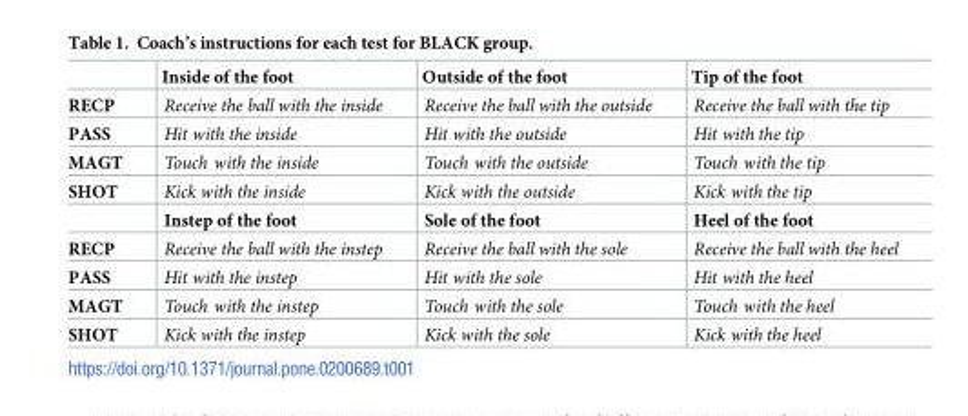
<table><thead><tr><td></td><td>Inside of the foot</td><td>Outside of the foot</td><td>Tip of the foot</td></tr></thead><tbody><tr><td>RECP</td><td>Receive the ball with the inside</td><td>Receive the ball with the outside</td><td>Receive the ball with the tip</td></tr><tr><td>PASS</td><td>Hit with the inside</td><td>Hit with the outside</td><td>Hit with the tip</td></tr><tr><td>MAGT</td><td>Touch with the inside</td><td>Touch with the outside</td><td>Touch with the tip</td></tr><tr><td rowspan="2">SHOT</td><td>Kick with the inside</td><td>Kick with the outside</td><td>Kick with the tip</td></tr><tr><td>Instep of the foot</td><td>Sole of the foot</td><td>Heel of the foot</td></tr><tr><td>RECP</td><td>Receive the ball with the instep</td><td>Receive the ball with the sole</td><td>Receive the ball with the heel</td></tr><tr><td>PASS</td><td>Hit with the instep</td><td>Hit with the sole</td><td>Hit with the heel</td></tr><tr><td>MAGT</td><td>Touch with the instep</td><td>Touch with the sole</td><td>Touch with the heel</td></tr><tr><td>SHOT</td><td>Kick with the instep</td><td>Kick with the sole</td><td>Kick with the heel</td></tr></tbody></table>